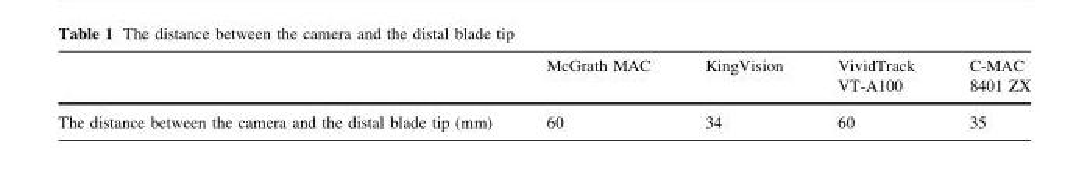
<table><thead><tr><td></td><td>McGrath MAC</td><td>KingVision</td><td>VividTrack VT-A100</td><td>C-MAC 8401 ZX</td></tr></thead><tbody><tr><td>The distance between the camera and the distal blade tip (mm)</td><td>60</td><td>34</td><td>60</td><td>35</td></tr></tbody></table>